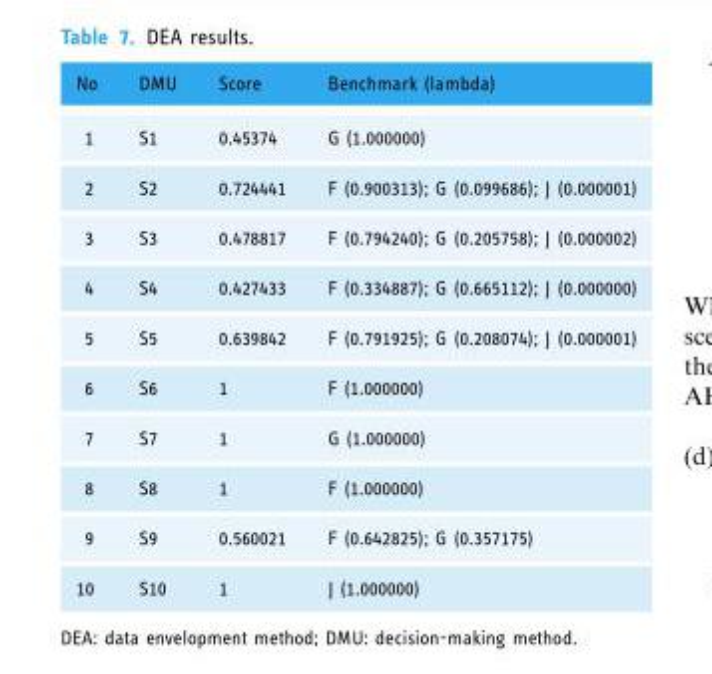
<table><thead><tr><td>No</td><td>DMU</td><td>Score</td><td>Benchmark (lambda)</td></tr></thead><tbody><tr><td>1</td><td>S1</td><td>0.45374</td><td>G (1.000000)</td></tr><tr><td>2</td><td>S2</td><td>0.724441</td><td>F (0.900313); G (0.099686); J (0.000001)</td></tr><tr><td>3</td><td>S3</td><td>0.478817</td><td>F (0.794240); G (0.205758); J (0.000002)</td></tr><tr><td>4</td><td>S4</td><td>0.427433</td><td>F (0.334887); G (0.665112); J (0.000000)</td></tr><tr><td>5</td><td>S5</td><td>0.639842</td><td>F (0.791925); G (0.208074); J (0.000001)</td></tr><tr><td>6</td><td>S6</td><td>1</td><td>F (1.000000)</td></tr><tr><td>7</td><td>S7</td><td>1</td><td>G (1.000000)</td></tr><tr><td>8</td><td>S8</td><td>1</td><td>F (1.000000)</td></tr><tr><td>9</td><td>S9</td><td>0.560021</td><td>F (0.642825); G (0.357175)</td></tr><tr><td>10</td><td>S10</td><td>1</td><td>J (1.000000)</td></tr></tbody></table>